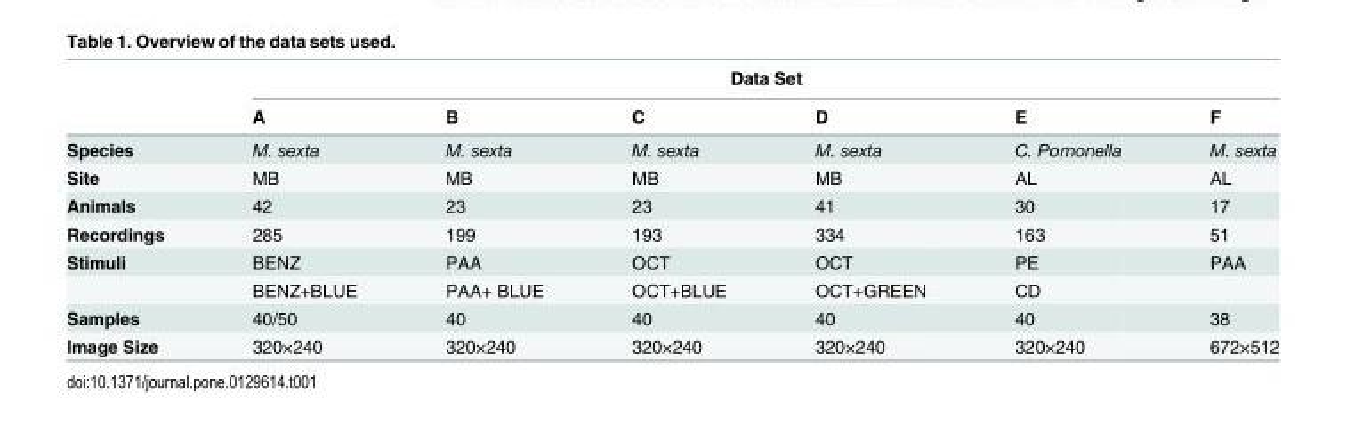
<table><thead><tr><td rowspan="2"></td><td colspan="6">Data Set</td></tr><tr><td>A</td><td>B</td><td>C</td><td>D</td><td>E</td><td>F</td></tr></thead><tbody><tr><td>Species</td><td>M. sexta</td><td>M. sexta</td><td>M. sexta</td><td>M. sexta</td><td>C. Pomonella</td><td>M. sexta</td></tr><tr><td>Site</td><td>MB</td><td>MB</td><td>MB</td><td>MB</td><td>AL</td><td>AL</td></tr><tr><td>Animals</td><td>42</td><td>23</td><td>23</td><td>41</td><td>30</td><td>17</td></tr><tr><td>Recordings</td><td>285</td><td>199</td><td>193</td><td>334</td><td>163</td><td>51</td></tr><tr><td rowspan="2">Stimuli</td><td>BENZ</td><td>PAA</td><td>OCT</td><td>OCT</td><td>PE</td><td>PAA</td></tr><tr><td>BENZ+BLUE</td><td>PAA+ BLUE</td><td>OCT+BLUE</td><td>OCT+GREEN</td><td>CD</td><td></td></tr><tr><td>Samples</td><td>40/50</td><td>40</td><td>40</td><td>40</td><td>40</td><td>38</td></tr><tr><td>Image Size</td><td>320×240</td><td>320×240</td><td>320×240</td><td>320×240</td><td>320×240</td><td>672×512</td></tr></tbody></table>